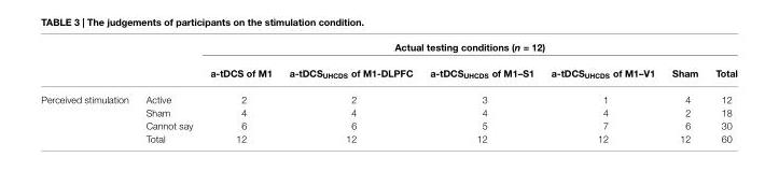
<table><thead><tr><td rowspan="2"></td><td rowspan="2"></td><td colspan="6">Actual testing conditions (n = 12)</td></tr><tr><td>a-tDCS of M1</td><td>a-tDCS<sub>UHCDS</sub> of M1-DLPFC</td><td>a-tDCS<sub>UHCDS</sub> of M1–S1</td><td>a-tDCS<sub>UHCDS</sub> of M1–V1</td><td>Sham</td><td>Total</td></tr></thead><tbody><tr><td rowspan="4">Perceived stimulation</td><td>Active</td><td>2</td><td>2</td><td>3</td><td>1</td><td>4</td><td>12</td></tr><tr><td>Sham</td><td>4</td><td>4</td><td>4</td><td>4</td><td>2</td><td>18</td></tr><tr><td>Cannot say</td><td>6</td><td>6</td><td>5</td><td>7</td><td>6</td><td>30</td></tr><tr><td>Total</td><td>12</td><td>12</td><td>12</td><td>12</td><td>12</td><td>60</td></tr></tbody></table>